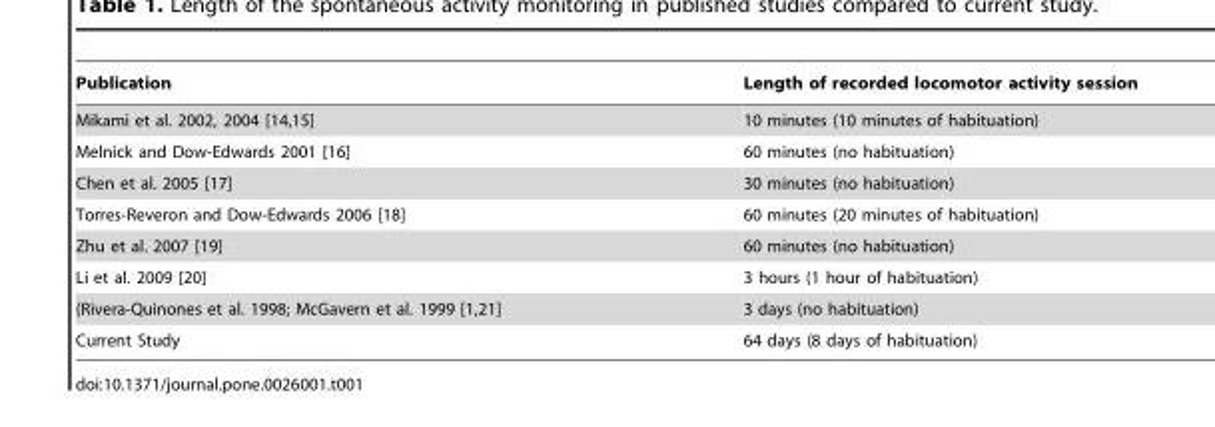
<table><thead><tr><td>Publication</td><td>Length of recorded locomotor activity session</td></tr></thead><tbody><tr><td>Mikami et al. 2002, 2004 [14,15]</td><td>10 minutes (10 minutes of habituation)</td></tr><tr><td>Melnick and Dow-Edwards 2001 [16]</td><td>60 minutes (no habituation)</td></tr><tr><td>Chen et al. 2005 [17]</td><td>30 minutes (no habituation)</td></tr><tr><td>Torres-Reveron and Dow-Edwards 2006 [18]</td><td>60 minutes (20 minutes of habituation)</td></tr><tr><td>Zhu et al. 2007 [19]</td><td>60 minutes (no habituation)</td></tr><tr><td>Li et al. 2009 [20]</td><td>3 hours (1 hour of habituation)</td></tr><tr><td>(Rivera-Quinones et al. 1998; McGavern et al. 1999 [1,21]</td><td>3 days (no habituation)</td></tr><tr><td>Current Study</td><td>64 days (8 days of habituation)</td></tr></tbody></table>